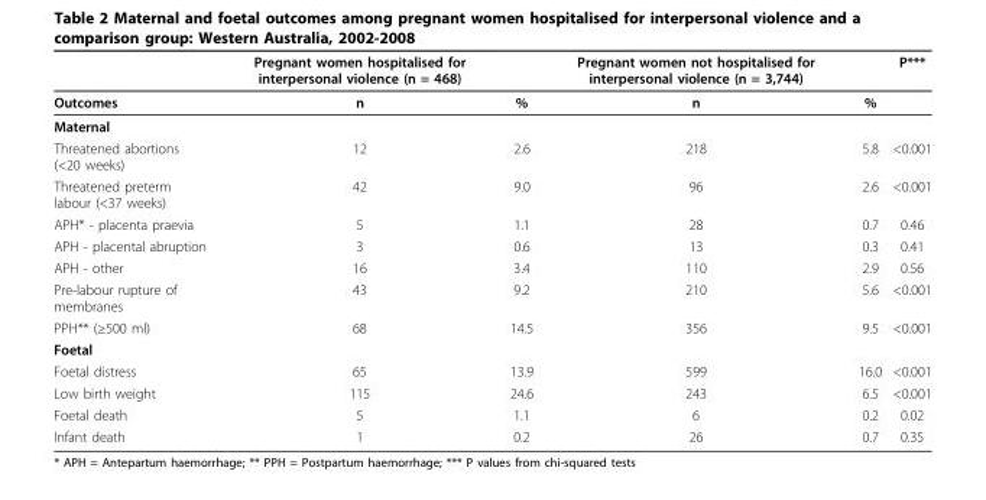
<table><thead><tr><td></td><td>Pregnant women hospitalised for interpersonal violence (n = 468)</td><td></td><td>Pregnant women not hospitalised for interpersonal violence (n = 3,744)</td><td></td><td>P***</td></tr></thead><tbody><tr><td>Outcomes</td><td>n</td><td>%</td><td>n</td><td>%</td><td></td></tr><tr><td colspan="6">Maternal</td></tr><tr><td>Threatened abortions (&lt;20 weeks)</td><td>12</td><td>2.6</td><td>218</td><td>5.8</td><td>&lt;0.001</td></tr><tr><td>Threatened preterm labour (&lt;37 weeks)</td><td>42</td><td>9.0</td><td>96</td><td>2.6</td><td>&lt;0.001</td></tr><tr><td>APH* - placenta praevia</td><td>5</td><td>1.1</td><td>28</td><td>0.7</td><td>0.46</td></tr><tr><td>APH - placental abruption</td><td>3</td><td>0.6</td><td>13</td><td>0.3</td><td>0.41</td></tr><tr><td>APH - other</td><td>16</td><td>3.4</td><td>110</td><td>2.9</td><td>0.56</td></tr><tr><td>Pre-labour rupture of membranes</td><td>43</td><td>9.2</td><td>210</td><td>5.6</td><td>&lt;0.001</td></tr><tr><td>PPH** (≥500 ml)</td><td>68</td><td>14.5</td><td>356</td><td>9.5</td><td>&lt;0.001</td></tr><tr><td colspan="6">Foetal</td></tr><tr><td>Foetal distress</td><td>65</td><td>13.9</td><td>599</td><td>16.0</td><td>&lt;0.001</td></tr><tr><td>Low birth weight</td><td>115</td><td>24.6</td><td>243</td><td>6.5</td><td>&lt;0.001</td></tr><tr><td>Foetal death</td><td>5</td><td>1.1</td><td>6</td><td>0.2</td><td>0.02</td></tr><tr><td>Infant death</td><td>1</td><td>0.2</td><td>26</td><td>0.7</td><td>0.35</td></tr></tbody></table>